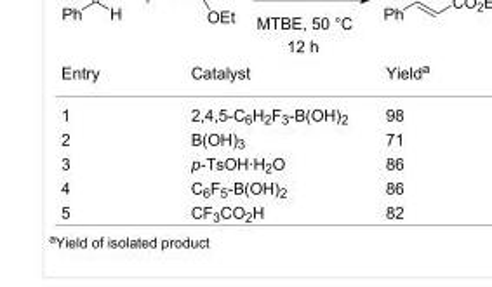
<table><tbody><tr><td>Entry</td><td>Catalyst</td><td>Yield<sup>a</sup></td></tr><tr><td>1</td><td>2,4,5-C<sub>6</sub>H<sub>2</sub>F<sub>3</sub>-B(OH)<sub>2</sub></td><td>98</td></tr><tr><td>2</td><td>B(OH)<sub>3</sub></td><td>71</td></tr><tr><td>3</td><td>p-TsOH·H<sub>2</sub>O</td><td>86</td></tr><tr><td>4</td><td>C<sub>6</sub>F<sub>5</sub>-B(OH)<sub>2</sub></td><td>86</td></tr><tr><td>5</td><td>CF<sub>3</sub>CO<sub>2</sub>H</td><td>82</td></tr></tbody></table>